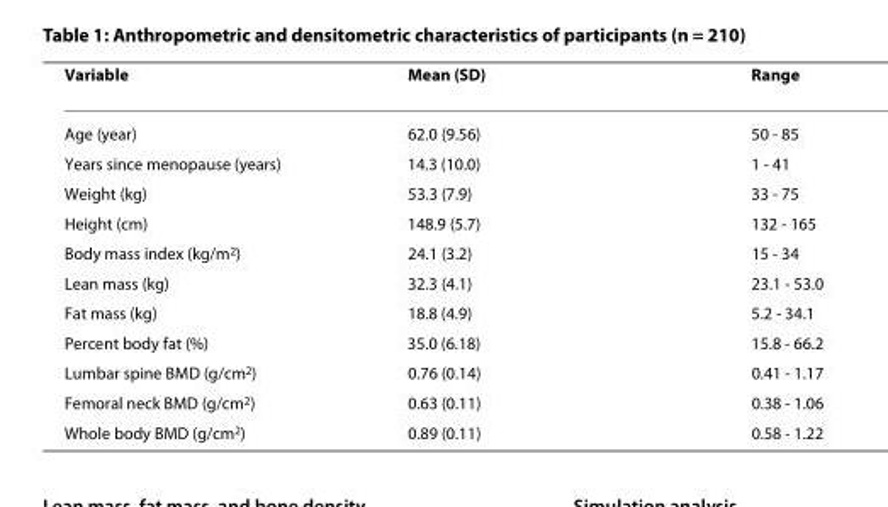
<table><thead><tr><td>Variable</td><td>Mean (SD)</td><td>Range</td></tr></thead><tbody><tr><td>Age (year)</td><td>62.0 (9.56)</td><td>50 - 85</td></tr><tr><td>Years since menopause (years)</td><td>14.3 (10.0)</td><td>1 - 41</td></tr><tr><td>Weight (kg)</td><td>53.3 (7.9)</td><td>33 - 75</td></tr><tr><td>Height (cm)</td><td>148.9 (5.7)</td><td>132 - 165</td></tr><tr><td>Body mass index (kg/m<sup>2</sup>)</td><td>24.1 (3.2)</td><td>15 - 34</td></tr><tr><td>Lean mass (kg)</td><td>32.3 (4.1)</td><td>23.1 - 53.0</td></tr><tr><td>Fat mass (kg)</td><td>18.8 (4.9)</td><td>5.2 - 34.1</td></tr><tr><td>Percent body fat (%)</td><td>35.0 (6.18)</td><td>15.8 - 66.2</td></tr><tr><td>Lumbar spine BMD (g/cm<sup>2</sup>)</td><td>0.76 (0.14)</td><td>0.41 - 1.17</td></tr><tr><td>Femoral neck BMD (g/cm<sup>2</sup>)</td><td>0.63 (0.11)</td><td>0.38 - 1.06</td></tr><tr><td>Whole body BMD (g/cm<sup>2</sup>)</td><td>0.89 (0.11)</td><td>0.58 - 1.22</td></tr></tbody></table>